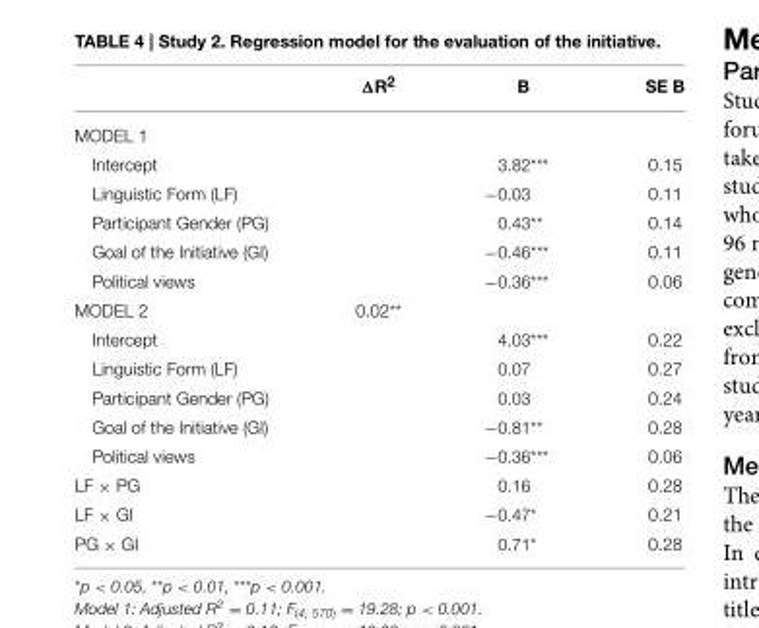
<table><thead><tr><td></td><td>ΔR<sup>2</sup></td><td>B</td><td>SE B</td></tr></thead><tbody><tr><td colspan="4">MODEL 1</td></tr><tr><td>Intercept</td><td></td><td>3.82***</td><td>0.15</td></tr><tr><td>Linguistic Form (LF)</td><td></td><td>−0.03</td><td>0.11</td></tr><tr><td>Participant Gender (PG)</td><td></td><td>0.43**</td><td>0.14</td></tr><tr><td>Goal of the Initiative (GI)</td><td></td><td>−0.46***</td><td>0.11</td></tr><tr><td>Political views</td><td></td><td>−0.36***</td><td>0.06</td></tr><tr><td>MODEL 2</td><td>0.02**</td><td></td><td></td></tr><tr><td>Intercept</td><td></td><td>4.03***</td><td>0.22</td></tr><tr><td>Linguistic Form (LF)</td><td></td><td>0.07</td><td>0.27</td></tr><tr><td>Participant Gender (PG)</td><td></td><td>0.03</td><td>0.24</td></tr><tr><td>Goal of the Initiative (GI)</td><td></td><td>−0.81**</td><td>0.28</td></tr><tr><td>Political views</td><td></td><td>−0.36***</td><td>0.06</td></tr><tr><td>LF × PG</td><td></td><td>0.16</td><td>0.28</td></tr><tr><td>LF × GI</td><td></td><td>−0.47*</td><td>0.21</td></tr><tr><td>PG × GI</td><td></td><td>0.71*</td><td>0.28</td></tr></tbody></table>